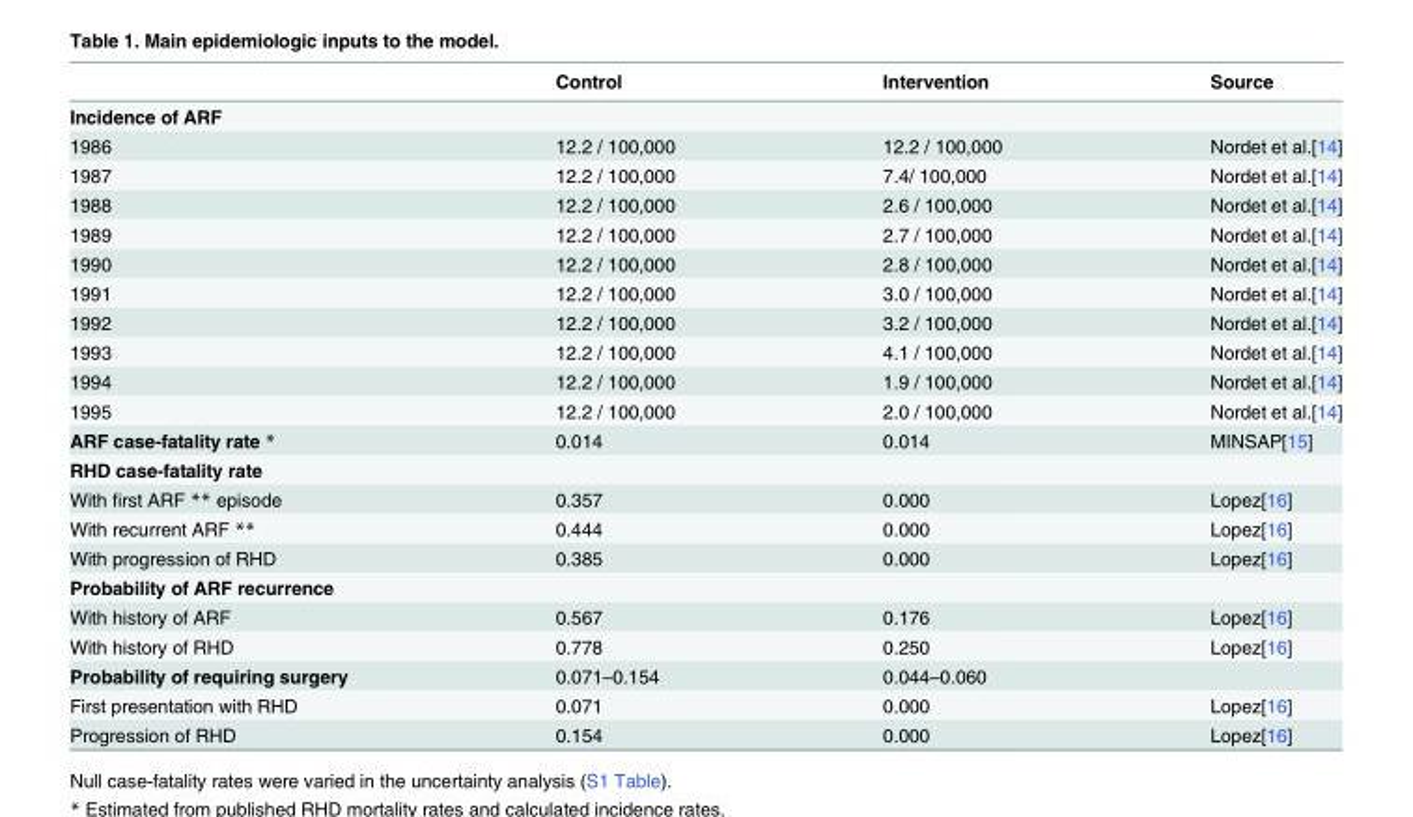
<table><thead><tr><td></td><td>Control</td><td>Intervention</td><td>Source</td></tr></thead><tbody><tr><td colspan="4">Incidence of ARF</td></tr><tr><td>1986</td><td>12.2 / 100,000</td><td>12.2 / 100,000</td><td>Nordet et al.[14]</td></tr><tr><td>1987</td><td>12.2 / 100,000</td><td>7.4/ 100,000</td><td>Nordet et al.[14]</td></tr><tr><td>1988</td><td>12.2 / 100,000</td><td>2.6 / 100,000</td><td>Nordet et al.[14]</td></tr><tr><td>1989</td><td>12.2 / 100,000</td><td>2.7 / 100,000</td><td>Nordet et al.[14]</td></tr><tr><td>1990</td><td>12.2 / 100,000</td><td>2.8 / 100,000</td><td>Nordet et al.[14]</td></tr><tr><td>1991</td><td>12.2 / 100,000</td><td>3.0 / 100,000</td><td>Nordet et al.[14]</td></tr><tr><td>1992</td><td>12.2 / 100,000</td><td>3.2 / 100,000</td><td>Nordet et al.[14]</td></tr><tr><td>1993</td><td>12.2 / 100,000</td><td>4.1 / 100,000</td><td>Nordet et al.[14]</td></tr><tr><td>1994</td><td>12.2 / 100,000</td><td>1.9 / 100,000</td><td>Nordet et al.[14]</td></tr><tr><td>1995</td><td>12.2 / 100,000</td><td>2.0 / 100,000</td><td>Nordet et al.[14]</td></tr><tr><td>ARF case-fatality rate *</td><td>0.014</td><td>0.014</td><td>MINSAP[15]</td></tr><tr><td colspan="4">RHD case-fatality rate</td></tr><tr><td>With first ARF ** episode</td><td>0.357</td><td>0.000</td><td>Lopez[16]</td></tr><tr><td>With recurrent ARF **</td><td>0.444</td><td>0.000</td><td>Lopez[16]</td></tr><tr><td>With progression of RHD</td><td>0.385</td><td>0.000</td><td>Lopez[16]</td></tr><tr><td colspan="4">Probability of ARF recurrence</td></tr><tr><td>With history of ARF</td><td>0.567</td><td>0.176</td><td>Lopez[16]</td></tr><tr><td>With history of RHD</td><td>0.778</td><td>0.250</td><td>Lopez[16]</td></tr><tr><td>Probability of requiring surgery</td><td>0.071–0.154</td><td>0.044–0.060</td><td></td></tr><tr><td>First presentation with RHD</td><td>0.071</td><td>0.000</td><td>Lopez[16]</td></tr><tr><td>Progression of RHD</td><td>0.154</td><td>0.000</td><td>Lopez[16]</td></tr></tbody></table>